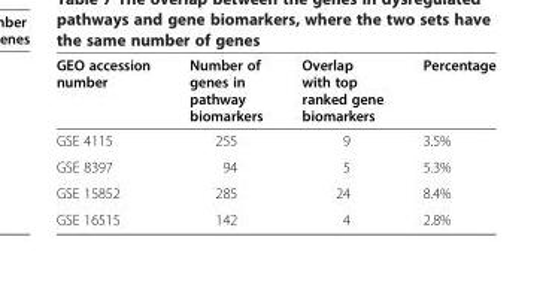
<table><thead><tr><td>GEO accession number</td><td>Number of genes in pathway biomarkers</td><td>Overlap with top ranked gene biomarkers</td><td>Percentage</td></tr></thead><tbody><tr><td>GSE 4115</td><td>255</td><td>9</td><td>3.5%</td></tr><tr><td>GSE 8397</td><td>94</td><td>5</td><td>5.3%</td></tr><tr><td>GSE 15852</td><td>285</td><td>24</td><td>8.4%</td></tr><tr><td>GSE 16515</td><td>142</td><td>4</td><td>2.8%</td></tr></tbody></table>